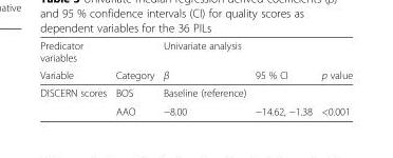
<table><thead><tr><td rowspan="2">Predicator variables Variable</td><td rowspan="2">Category</td><td rowspan="2">Univariate analysis β</td><td rowspan="2">95 % CI</td><td rowspan="2">p value</td></tr><tr></tr></thead><tbody><tr><td rowspan="2">DISCERN scores</td><td>BOS</td><td>Baseline (reference)</td><td></td><td></td></tr><tr><td>AAO</td><td>−8.00</td><td>−14.62, −1.38</td><td>&lt;0.001</td></tr></tbody></table>